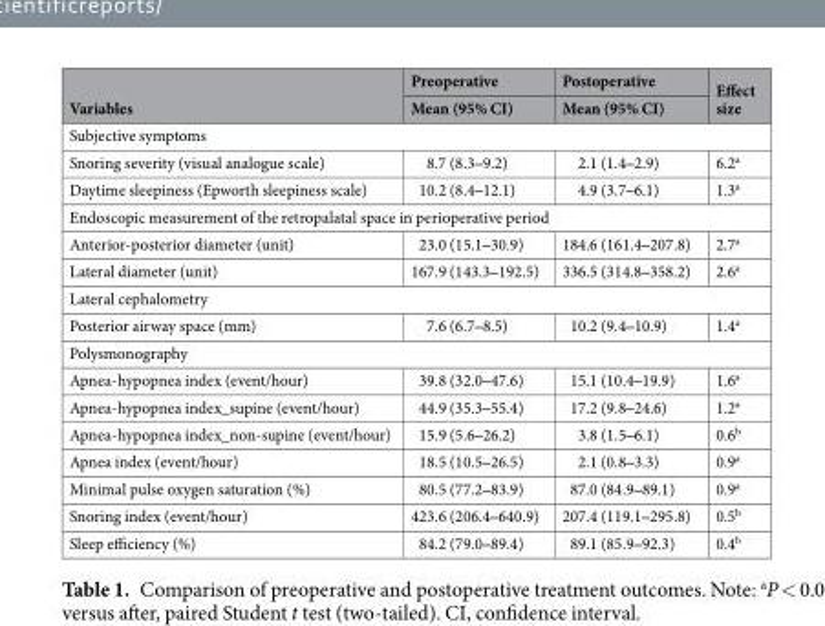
<table><thead><tr><td rowspan="2">Variables</td><td rowspan="2">Preoperative Mean (95% CI)</td><td rowspan="2">Postoperative Mean (95% CI)</td><td rowspan="2">Effect size</td></tr><tr></tr></thead><tbody><tr><td colspan="4">Subjective symptoms</td></tr><tr><td>Snoring severity (visual analogue scale)</td><td>8.7 (8.3‒9.2)</td><td>2.1 (1.4‒2.9)</td><td>6.2<sup>a</sup></td></tr><tr><td>Daytime sleepiness (Epworth sleepiness scale)</td><td>10.2 (8.4‒12.1)</td><td>4.9 (3.7‒6.1)</td><td>1.3<sup>a</sup></td></tr><tr><td colspan="4">Endoscopic measurement of the retropalatal space in perioperative period</td></tr><tr><td>Anterior-posterior diameter (unit)</td><td>23.0 (15.1‒30.9)</td><td>184.6 (161.4‒207.8)</td><td>2.7<sup>a</sup></td></tr><tr><td>Lateral diameter (unit)</td><td>167.9 (143.3‒192.5)</td><td>336.5 (314.8‒358.2)</td><td>2.6<sup>a</sup></td></tr><tr><td colspan="4">Lateral cephalometry</td></tr><tr><td>Posterior airway space (mm)</td><td>7.6 (6.7‒8.5)</td><td>10.2 (9.4‒10.9)</td><td>1.4<sup>a</sup></td></tr><tr><td colspan="4">Polysmonography</td></tr><tr><td>Apnea-hypopnea index (event/hour)</td><td>39.8 (32.0‒47.6)</td><td>15.1 (10.4‒19.9)</td><td>1.6<sup>a</sup></td></tr><tr><td>Apnea-hypopnea index_supine (event/hour)</td><td>44.9 (35.3‒55.4)</td><td>17.2 (9.8‒24.6)</td><td>1.2<sup>a</sup></td></tr><tr><td>Apnea-hypopnea index_non-supine (event/hour)</td><td>15.9 (5.6‒26.2)</td><td>3.8 (1.5‒6.1)</td><td>0.6<sup>b</sup></td></tr><tr><td>Apnea index (event/hour)</td><td>18.5 (10.5‒26.5)</td><td>2.1 (0.8‒3.3)</td><td>0.9<sup>a</sup></td></tr><tr><td>Minimal pulse oxygen saturation (%)</td><td>80.5 (77.2‒83.9)</td><td>87.0 (84.9‒89.1)</td><td>0.9<sup>a</sup></td></tr><tr><td>Snoring index (event/hour)</td><td>423.6 (206.4‒640.9)</td><td>207.4 (119.1‒295.8)</td><td>0.5<sup>b</sup></td></tr><tr><td>Sleep efficiency (%)</td><td>84.2 (79.0‒89.4)</td><td>89.1 (85.9‒92.3)</td><td>0.4<sup>b</sup></td></tr></tbody></table>